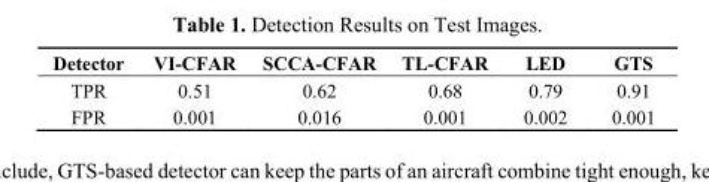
<table><thead><tr><td>Detector</td><td>VI-CFAR</td><td>SCCA-CFAR</td><td>TL-CFAR</td><td>LED</td><td>GTS</td></tr></thead><tbody><tr><td>TPR</td><td>0.51</td><td>0.62</td><td>0.68</td><td>0.79</td><td>0.91</td></tr><tr><td>FPR</td><td>0.001</td><td>0.016</td><td>0.001</td><td>0.002</td><td>0.001</td></tr></tbody></table>